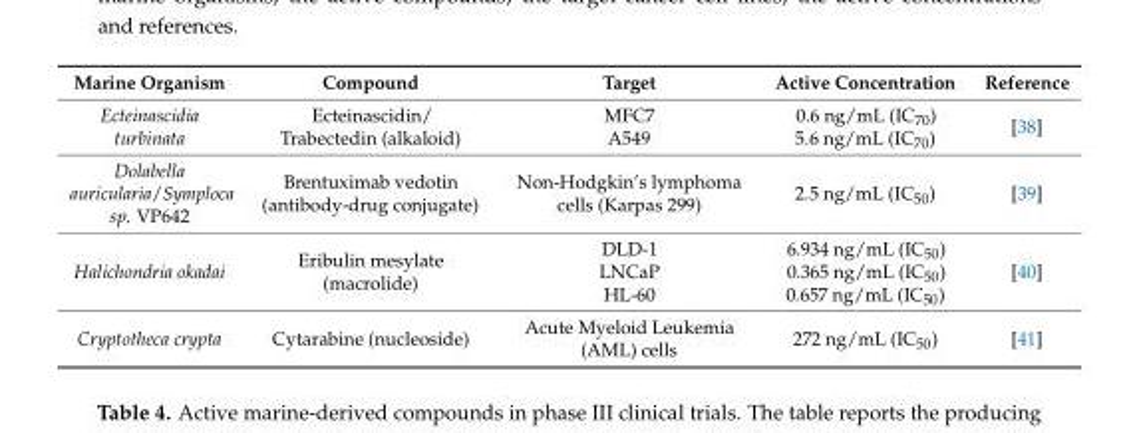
<table><thead><tr><td>Marine Organism</td><td>Compound</td><td>Target</td><td>Active Concentration</td><td>Reference</td></tr></thead><tbody><tr><td>Ecteinascidia turbinata</td><td>Ecteinascidin/ Trabectedin (alkaloid)</td><td>MFC7 A549</td><td>0.6 ng/mL (IC<sub>70</sub>) 5.6 ng/mL (IC<sub>70</sub>)</td><td>[38]</td></tr><tr><td>Dolabella auricularia/Symploca sp. VP642</td><td>Brentuximab vedotin (antibody-drug conjugate)</td><td>Non-Hodgkin’s lymphoma cells (Karpas 299)</td><td>2.5 ng/mL (IC<sub>50</sub>)</td><td>[39]</td></tr><tr><td>Halichondria okadai</td><td>Eribulin mesylate (macrolide)</td><td>DLD-1 LNCaP HL-60</td><td>6.934 ng/mL (IC<sub>50</sub>) 0.365 ng/mL (IC<sub>50</sub>) 0.657 ng/mL (IC<sub>50</sub>)</td><td>[40]</td></tr><tr><td>Cryptotheca crypta</td><td>Cytarabine (nucleoside)</td><td>Acute Myeloid Leukemia (AML) cells</td><td>272 ng/mL (IC<sub>50</sub>)</td><td>[41]</td></tr></tbody></table>